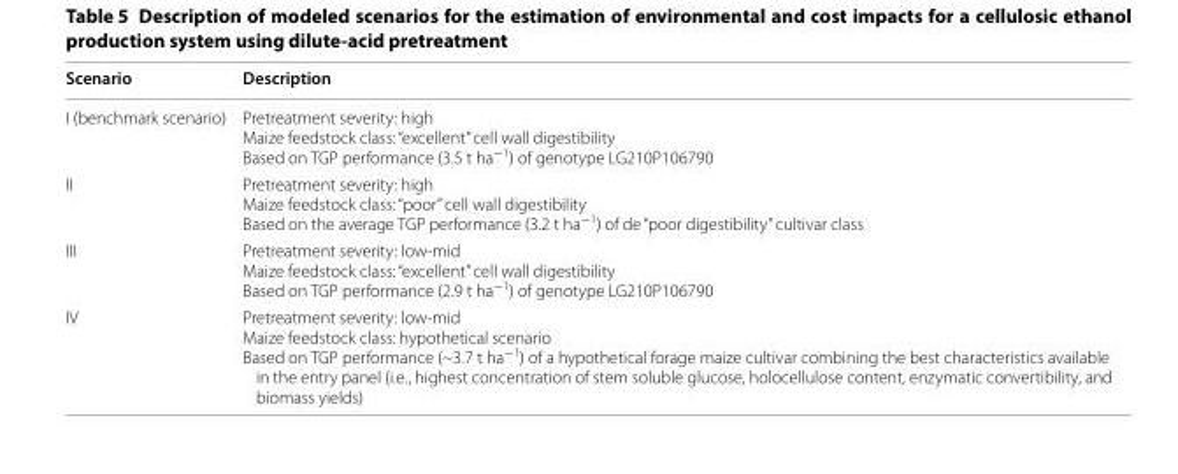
<table><thead><tr><td>Scenario</td><td>Description</td></tr></thead><tbody><tr><td>I (benchmark scenario)</td><td>Pretreatment severity: high Maize feedstock class: “excellent” cell wall digestibility Based on TGP performance (3.5 t ha<sup>−1</sup>) of genotype LG210P106790</td></tr><tr><td>II</td><td>Pretreatment severity: high Maize feedstock class: “poor” cell wall digestibility Based on the average TGP performance (3.2 t ha<sup>−1</sup>) of de “poor digestibility” cultivar class</td></tr><tr><td>III</td><td>Pretreatment severity: low‑mid Maize feedstock class: “excellent” cell wall digestibility Based on TGP performance (2.9 t ha<sup>−1</sup>) of genotype LG210P106790</td></tr><tr><td>IV</td><td>Pretreatment severity: low‑mid Maize feedstock class: hypothetical scenario Based on TGP performance (~3.7 t ha<sup>−1</sup>) of a hypothetical forage maize cultivar combining the best characteristics available in the entry panel (i.e., highest concentration of stem soluble glucose, holocellulose content, enzymatic convertibility, and biomass yields)</td></tr></tbody></table>